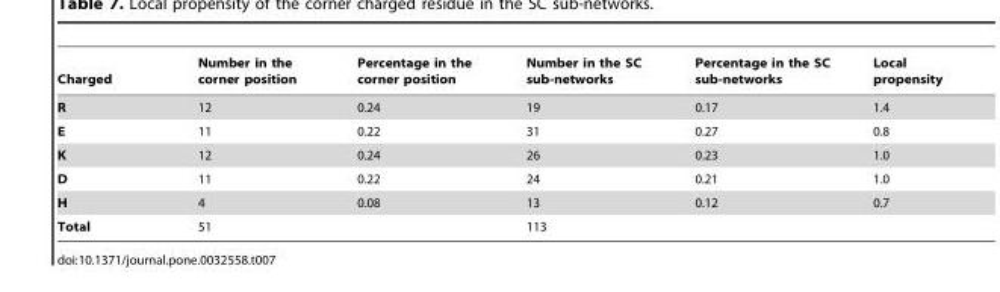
<table><thead><tr><td>Charged</td><td>Number in the corner position</td><td>Percentage in the corner position</td><td>Number in the SC sub-networks</td><td>Percentage in the SC sub-networks</td><td>Local propensity</td></tr></thead><tbody><tr><td>R</td><td>12</td><td>0.24</td><td>19</td><td>0.17</td><td>1.4</td></tr><tr><td>E</td><td>11</td><td>0.22</td><td>31</td><td>0.27</td><td>0.8</td></tr><tr><td>K</td><td>12</td><td>0.24</td><td>26</td><td>0.23</td><td>1.0</td></tr><tr><td>D</td><td>11</td><td>0.22</td><td>24</td><td>0.21</td><td>1.0</td></tr><tr><td>H</td><td>4</td><td>0.08</td><td>13</td><td>0.12</td><td>0.7</td></tr><tr><td>Total</td><td>51</td><td></td><td>113</td><td></td><td></td></tr></tbody></table>